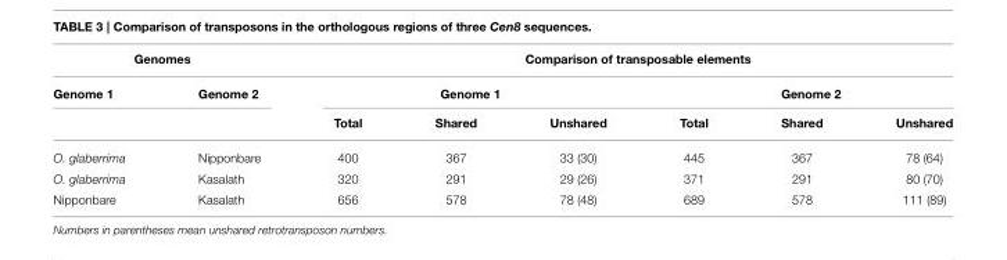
<table><thead><tr><td colspan="2">Genomes</td><td colspan="6">Comparison of transposable elements</td></tr><tr><td rowspan="2">Genome 1</td><td rowspan="2">Genome 2</td><td colspan="3">Genome 1</td><td colspan="3">Genome 2</td></tr><tr><td>Total</td><td>Shared</td><td>Unshared</td><td>Total</td><td>Shared</td><td>Unshared</td></tr></thead><tbody><tr><td>O. glaberrima</td><td>Nipponbare</td><td>400</td><td>367</td><td>33 (30)</td><td>445</td><td>367</td><td>78 (64)</td></tr><tr><td>O. glaberrima</td><td>Kasalath</td><td>320</td><td>291</td><td>29 (26)</td><td>371</td><td>291</td><td>80 (70)</td></tr><tr><td>Nipponbare</td><td>Kasalath</td><td>656</td><td>578</td><td>78 (48)</td><td>689</td><td>578</td><td>111 (89)</td></tr></tbody></table>